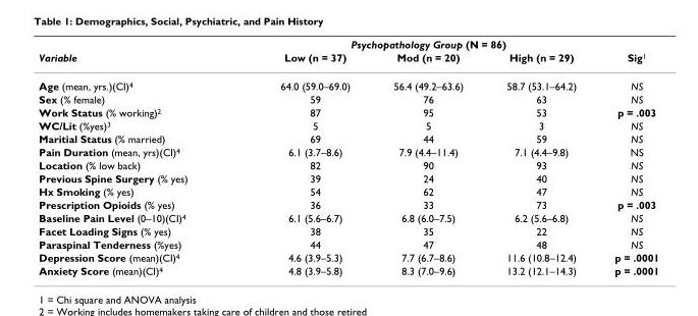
<table><thead><tr><td rowspan="2">Variable</td><td colspan="3">Psychopathology Group (N = 86)</td><td rowspan="2">Sig<sup>1</sup></td></tr><tr><td>Low (n = 37)</td><td>Mod (n = 20)</td><td>High (n = 29)</td></tr></thead><tbody><tr><td>Age (mean, yrs.)(CI)<sup>4</sup></td><td>64.0 (59.0–69.0)</td><td>56.4 (49.2–63.6)</td><td>58.7 (53.1–64.2)</td><td>NS</td></tr><tr><td>Sex (% female)</td><td>59</td><td>76</td><td>63</td><td>NS</td></tr><tr><td>Work Status (% working)<sup>2</sup></td><td>87</td><td>95</td><td>53</td><td>p = .003</td></tr><tr><td>WC/Lit (%yes)<sup>3</sup></td><td>5</td><td>5</td><td>3</td><td>NS</td></tr><tr><td>Maritial Status (% married)</td><td>69</td><td>44</td><td>59</td><td>NS</td></tr><tr><td>Pain Duration (mean, yrs)(CI)<sup>4</sup></td><td>6.1 (3.7–8.6)</td><td>7.9 (4.4–11.4)</td><td>7.1 (4.4–9.8)</td><td>NS</td></tr><tr><td>Location (% low back)</td><td>82</td><td>90</td><td>93</td><td>NS</td></tr><tr><td>Previous Spine Surgery (% yes)</td><td>39</td><td>24</td><td>40</td><td>NS</td></tr><tr><td>Hx Smoking (% yes)</td><td>54</td><td>62</td><td>47</td><td>NS</td></tr><tr><td>Prescription Opioids (% yes)</td><td>36</td><td>33</td><td>73</td><td>p = .003</td></tr><tr><td>Baseline Pain Level (0–10)(CI)<sup>4</sup></td><td>6.1 (5.6–6.7)</td><td>6.8 (6.0–7.5)</td><td>6.2 (5.6–6.8)</td><td>NS</td></tr><tr><td>Facet Loading Signs (% yes)</td><td>38</td><td>35</td><td>22</td><td>NS</td></tr><tr><td>Paraspinal Tenderness (%yes)</td><td>44</td><td>47</td><td>48</td><td>NS</td></tr><tr><td>Depression Score (mean)(CI)<sup>4</sup></td><td>4.6 (3.9–5.3)</td><td>7.7 (6.7–8.6)</td><td>11.6 (10.8–12.4)</td><td>p = .0001</td></tr><tr><td>Anxiety Score (mean)(CI)<sup>4</sup></td><td>4.8 (3.9–5.8)</td><td>8.3 (7.0–9.6)</td><td>13.2 (12.1–14.3)</td><td>p = .0001</td></tr></tbody></table>